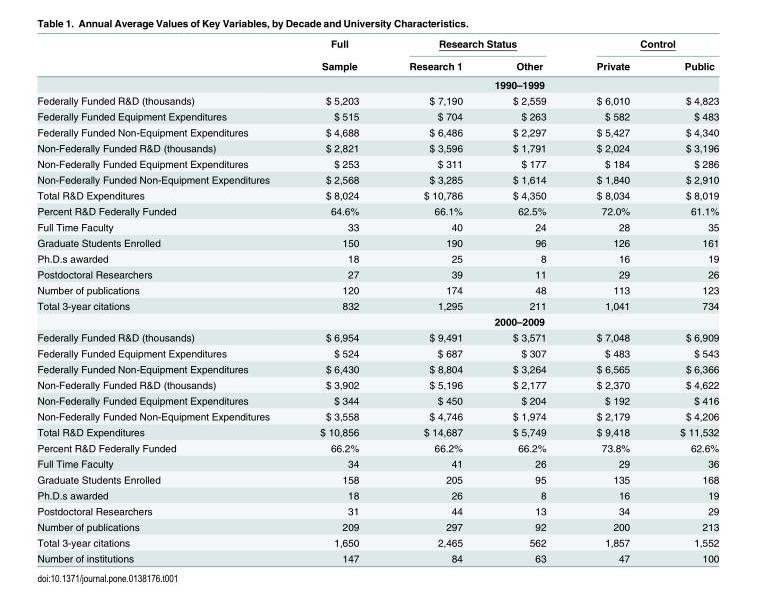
<table><thead><tr><td rowspan="2"></td><td rowspan="2">Full Sample</td><td colspan="2">Research Status</td><td colspan="2">Control</td></tr><tr><td>Research 1</td><td>Other</td><td>Private</td><td>Public</td></tr></thead><tbody><tr><td></td><td colspan="5">1990–1999</td></tr><tr><td>Federally Funded R&amp;D (thousands)</td><td>$ 5,203</td><td>$ 7,190</td><td>$ 2,559</td><td>$ 6,010</td><td>$ 4,823</td></tr><tr><td>Federally Funded Equipment Expenditures</td><td>$ 515</td><td>$ 704</td><td>$ 263</td><td>$ 582</td><td>$ 483</td></tr><tr><td>Federally Funded Non-Equipment Expenditures</td><td>$ 4,688</td><td>$ 6,486</td><td>$ 2,297</td><td>$ 5,427</td><td>$ 4,340</td></tr><tr><td>Non-Federally Funded R&amp;D (thousands)</td><td>$ 2,821</td><td>$ 3,596</td><td>$ 1,791</td><td>$ 2,024</td><td>$ 3,196</td></tr><tr><td>Non-Federally Funded Equipment Expenditures</td><td>$ 253</td><td>$ 311</td><td>$ 177</td><td>$ 184</td><td>$ 286</td></tr><tr><td>Non-Federally Funded Non-Equipment Expenditures</td><td>$ 2,568</td><td>$ 3,285</td><td>$ 1,614</td><td>$ 1,840</td><td>$ 2,910</td></tr><tr><td>Total R&amp;D Expenditures</td><td>$ 8,024</td><td>$ 10,786</td><td>$ 4,350</td><td>$ 8,034</td><td>$ 8,019</td></tr><tr><td>Percent R&amp;D Federally Funded</td><td>64.6%</td><td>66.1%</td><td>62.5%</td><td>72.0%</td><td>61.1%</td></tr><tr><td>Full Time Faculty</td><td>33</td><td>40</td><td>24</td><td>28</td><td>35</td></tr><tr><td>Graduate Students Enrolled</td><td>150</td><td>190</td><td>96</td><td>126</td><td>161</td></tr><tr><td>Ph.D.s awarded</td><td>18</td><td>25</td><td>8</td><td>16</td><td>19</td></tr><tr><td>Postdoctoral Researchers</td><td>27</td><td>39</td><td>11</td><td>29</td><td>26</td></tr><tr><td>Number of publications</td><td>120</td><td>174</td><td>48</td><td>113</td><td>123</td></tr><tr><td rowspan="2">Total 3-year citations</td><td>832</td><td>1,295</td><td>211</td><td>1,041</td><td>734</td></tr><tr><td colspan="5">2000–2009</td></tr><tr><td>Federally Funded R&amp;D (thousands)</td><td>$ 6,954</td><td>$ 9,491</td><td>$ 3,571</td><td>$ 7,048</td><td>$ 6,909</td></tr><tr><td>Federally Funded Equipment Expenditures</td><td>$ 524</td><td>$ 687</td><td>$ 307</td><td>$ 483</td><td>$ 543</td></tr><tr><td>Federally Funded Non-Equipment Expenditures</td><td>$ 6,430</td><td>$ 8,804</td><td>$ 3,264</td><td>$ 6,565</td><td>$ 6,366</td></tr><tr><td>Non-Federally Funded R&amp;D (thousands)</td><td>$ 3,902</td><td>$ 5,196</td><td>$ 2,177</td><td>$ 2,370</td><td>$ 4,622</td></tr><tr><td>Non-Federally Funded Equipment Expenditures</td><td>$ 344</td><td>$ 450</td><td>$ 204</td><td>$ 192</td><td>$ 416</td></tr><tr><td>Non-Federally Funded Non-Equipment Expenditures</td><td>$ 3,558</td><td>$ 4,746</td><td>$ 1,974</td><td>$ 2,179</td><td>$ 4,206</td></tr><tr><td>Total R&amp;D Expenditures</td><td>$ 10,856</td><td>$ 14,687</td><td>$ 5,749</td><td>$ 9,418</td><td>$ 11,532</td></tr><tr><td>Percent R&amp;D Federally Funded</td><td>66.2%</td><td>66.2%</td><td>66.2%</td><td>73.8%</td><td>62.6%</td></tr><tr><td>Full Time Faculty</td><td>34</td><td>41</td><td>26</td><td>29</td><td>36</td></tr><tr><td>Graduate Students Enrolled</td><td>158</td><td>205</td><td>95</td><td>135</td><td>168</td></tr><tr><td>Ph.D.s awarded</td><td>18</td><td>26</td><td>8</td><td>16</td><td>19</td></tr><tr><td>Postdoctoral Researchers</td><td>31</td><td>44</td><td>13</td><td>34</td><td>29</td></tr><tr><td>Number of publications</td><td>209</td><td>297</td><td>92</td><td>200</td><td>213</td></tr><tr><td>Total 3-year citations</td><td>1,650</td><td>2,465</td><td>562</td><td>1,857</td><td>1,552</td></tr><tr><td>Number of institutions</td><td>147</td><td>84</td><td>63</td><td>47</td><td>100</td></tr></tbody></table>